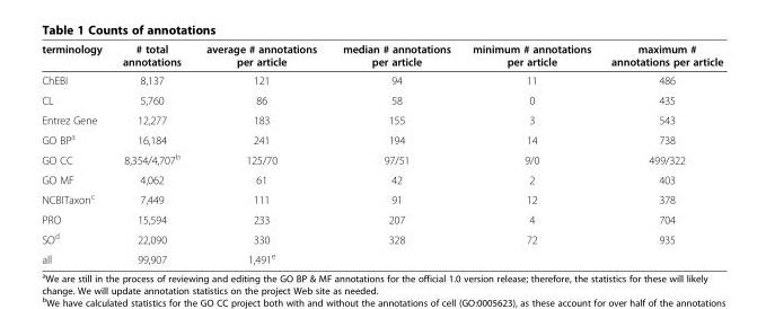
<table><thead><tr><td>terminology</td><td># total annotations</td><td>average # annotations per article</td><td>median # annotations per article</td><td>minimum # annotations per article</td><td>maximum # annotations per article</td></tr></thead><tbody><tr><td>ChEBI</td><td>8,137</td><td>121</td><td>94</td><td>11</td><td>486</td></tr><tr><td>CL</td><td>5,760</td><td>86</td><td>58</td><td>0</td><td>435</td></tr><tr><td>Entrez Gene</td><td>12,277</td><td>183</td><td>155</td><td>3</td><td>543</td></tr><tr><td>GO BP<sup>a</sup></td><td>16,184</td><td>241</td><td>194</td><td>14</td><td>738</td></tr><tr><td>GO CC</td><td>8,354/4,707<sup>b</sup></td><td>125/70</td><td>97/51</td><td>9/0</td><td>499/322</td></tr><tr><td>GO MF</td><td>4,062</td><td>61</td><td>42</td><td>2</td><td>403</td></tr><tr><td>NCBITaxon<sup>c</sup></td><td>7,449</td><td>111</td><td>91</td><td>12</td><td>378</td></tr><tr><td>PRO</td><td>15,594</td><td>233</td><td>207</td><td>4</td><td>704</td></tr><tr><td>SO<sup>d</sup></td><td>22,090</td><td>330</td><td>328</td><td>72</td><td>935</td></tr><tr><td>all</td><td>99,907</td><td>1,491<sup>e</sup></td><td></td><td></td><td></td></tr></tbody></table>